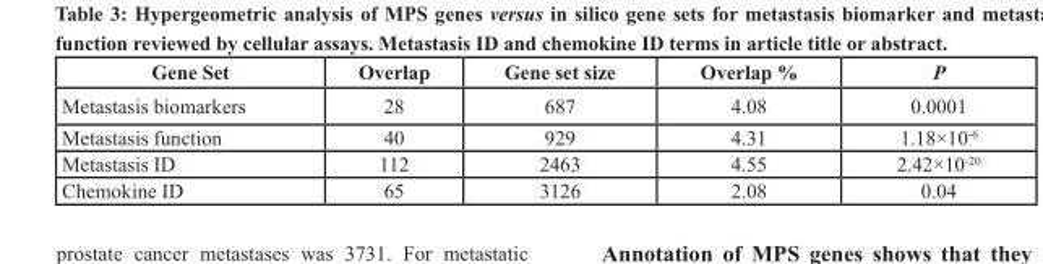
<table><thead><tr><td>Gene Set</td><td>Overlap</td><td>Gene set size</td><td>Overlap %</td><td>P</td></tr></thead><tbody><tr><td>Metastasis biomarkers</td><td>28</td><td>687</td><td>4.08</td><td>0.0001</td></tr><tr><td>Metastasis function</td><td>40</td><td>929</td><td>4.31</td><td>1.18×10<sup>-6</sup></td></tr><tr><td>Metastasis ID</td><td>112</td><td>2463</td><td>4.55</td><td>2.42×10<sup>-20</sup></td></tr><tr><td>Chemokine ID</td><td>65</td><td>3126</td><td>2.08</td><td>0.04</td></tr></tbody></table>